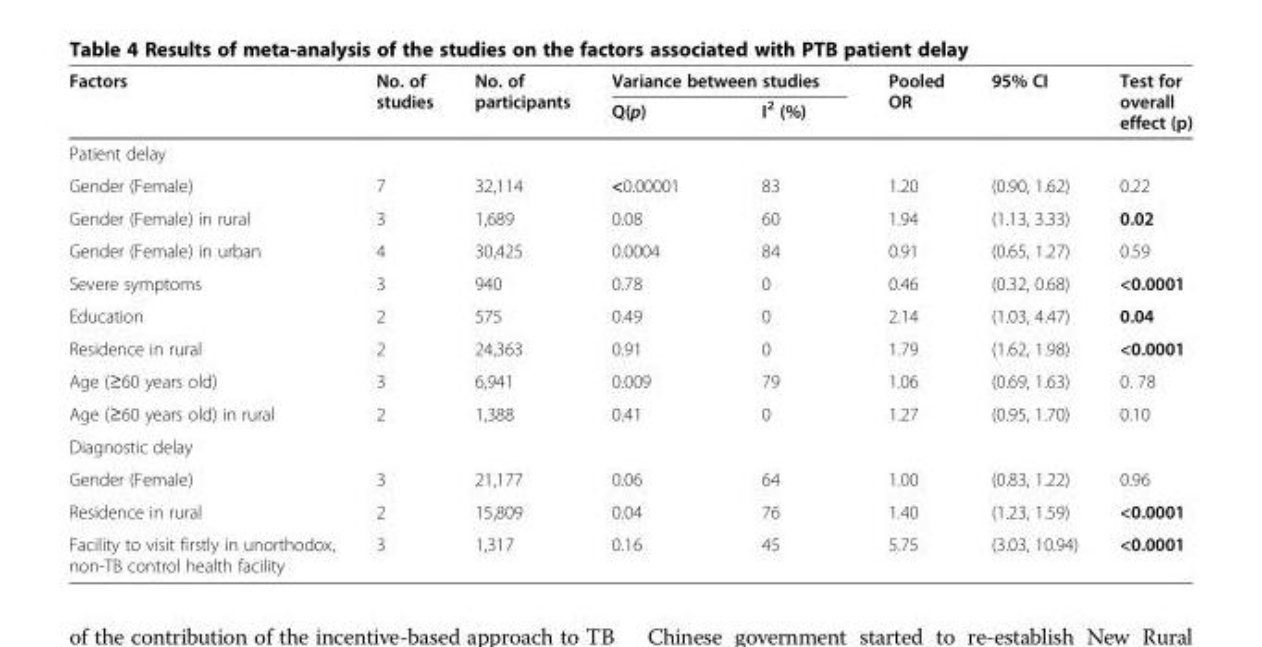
<table><thead><tr><td rowspan="2">Factors</td><td rowspan="2">No. of studies</td><td rowspan="2">No. of participants</td><td colspan="2">Variance between studies</td><td rowspan="2">Pooled OR</td><td rowspan="2">95% CI</td><td rowspan="2">Test for overall effect (p)</td></tr><tr><td>Q(p)</td><td>I<sup>2</sup> (%)</td></tr></thead><tbody><tr><td colspan="8">Patient delay</td></tr><tr><td>Gender (Female)</td><td>7</td><td>32,114</td><td>&lt;0.00001</td><td>83</td><td>1.20</td><td>(0.90, 1.62)</td><td>0.22</td></tr><tr><td>Gender (Female) in rural</td><td>3</td><td>1,689</td><td>0.08</td><td>60</td><td>1.94</td><td>(1.13, 3.33)</td><td>0.02</td></tr><tr><td>Gender (Female) in urban</td><td>4</td><td>30,425</td><td>0.0004</td><td>84</td><td>0.91</td><td>(0.65, 1.27)</td><td>0.59</td></tr><tr><td>Severe symptoms</td><td>3</td><td>940</td><td>0.78</td><td>0</td><td>0.46</td><td>(0.32, 0.68)</td><td>&lt;0.0001</td></tr><tr><td>Education</td><td>2</td><td>575</td><td>0.49</td><td>0</td><td>2.14</td><td>(1.03, 4.47)</td><td>0.04</td></tr><tr><td>Residence in rural</td><td>2</td><td>24,363</td><td>0.91</td><td>0</td><td>1.79</td><td>(1.62, 1.98)</td><td>&lt;0.0001</td></tr><tr><td>Age (≥60 years old)</td><td>3</td><td>6,941</td><td>0.009</td><td>79</td><td>1.06</td><td>(0.69, 1.63)</td><td>0. 78</td></tr><tr><td>Age (≥60 years old) in rural</td><td>2</td><td>1,388</td><td>0.41</td><td>0</td><td>1.27</td><td>(0.95, 1.70)</td><td>0.10</td></tr><tr><td colspan="8">Diagnostic delay</td></tr><tr><td>Gender (Female)</td><td>3</td><td>21,177</td><td>0.06</td><td>64</td><td>1.00</td><td>(0.83, 1.22)</td><td>0.96</td></tr><tr><td>Residence in rural</td><td>2</td><td>15,809</td><td>0.04</td><td>76</td><td>1.40</td><td>(1.23, 1.59)</td><td>&lt;0.0001</td></tr><tr><td>Facility to visit firstly in unorthodox, non-TB control health facility</td><td>3</td><td>1,317</td><td>0.16</td><td>45</td><td>5.75</td><td>(3.03, 10.94)</td><td>&lt;0.0001</td></tr></tbody></table>